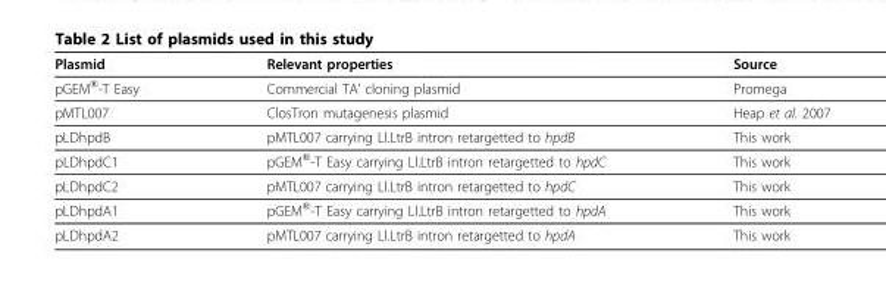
<table><thead><tr><td>Plasmid</td><td>Relevant properties</td><td>Source</td></tr></thead><tbody><tr><td>pGEM<sup>®</sup>-T Easy</td><td>Commercial TA’ cloning plasmid</td><td>Promega</td></tr><tr><td>pMTL007</td><td>ClosTron mutagenesis plasmid</td><td>Heap et al. 2007</td></tr><tr><td>pLDhpdB</td><td>pMTL007 carrying Ll.LtrB intron retargetted to hpdB</td><td>This work</td></tr><tr><td>pLDhpdC1</td><td>pGEM<sup>®</sup>-T Easy carrying Ll.LtrB intron retargetted to hpdC</td><td>This work</td></tr><tr><td>pLDhpdC2</td><td>pMTL007 carrying Ll.LtrB intron retargetted to hpdC</td><td>This work</td></tr><tr><td>pLDhpdA1</td><td>pGEM<sup>®</sup>-T Easy carrying Ll.LtrB intron retargetted to hpdA</td><td>This work</td></tr><tr><td>pLDhpdA2</td><td>pMTL007 carrying Ll.LtrB intron retargetted to hpdA</td><td>This work</td></tr></tbody></table>